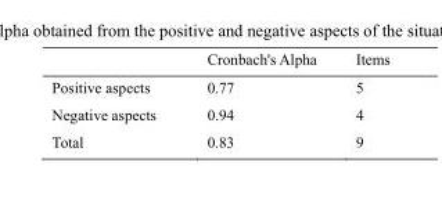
<table><thead><tr><td></td><td>Cronbach&#x27;s Alpha</td><td>Items</td></tr></thead><tbody><tr><td>Positive aspects</td><td>0.77</td><td>5</td></tr><tr><td>Negative aspects</td><td>0.94</td><td>4</td></tr><tr><td>Total</td><td>0.83</td><td>9</td></tr></tbody></table>